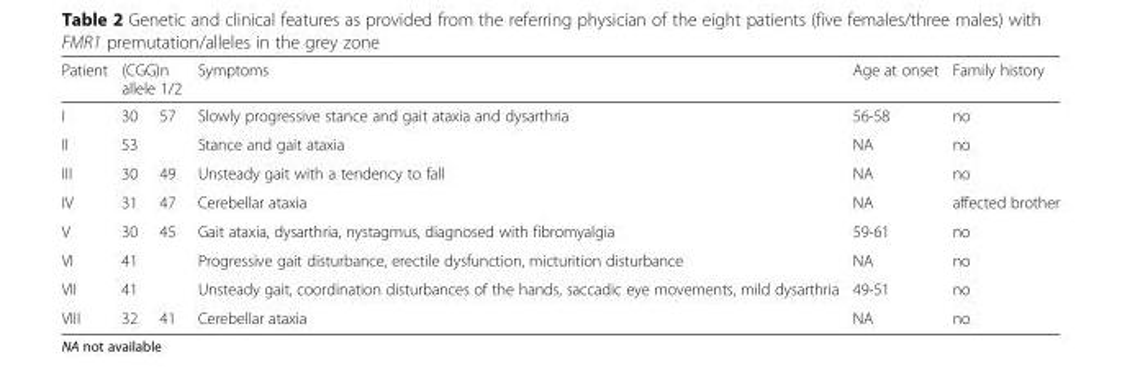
<table><thead><tr><td rowspan="2">Patient I</td><td colspan="2">(CGG)n allele 1/2</td><td rowspan="2">Symptoms Slowly progressive stance and gait ataxia and dysarthria</td><td rowspan="2">Age at onset 56-58</td><td rowspan="2">Family history no</td></tr><tr><td>30</td><td>57</td></tr></thead><tbody><tr><td>II</td><td colspan="2">53</td><td>Stance and gait ataxia</td><td>NA</td><td>no</td></tr><tr><td>III</td><td>30</td><td>49</td><td>Unsteady gait with a tendency to fall</td><td>NA</td><td>no</td></tr><tr><td>IV</td><td>31</td><td>47</td><td>Cerebellar ataxia</td><td>NA</td><td>affected brother</td></tr><tr><td>V</td><td>30</td><td>45</td><td>Gait ataxia, dysarthria, nystagmus, diagnosed with fibromyalgia</td><td>59-61</td><td>no</td></tr><tr><td>VI</td><td colspan="2">41</td><td>Progressive gait disturbance, erectile dysfunction, micturition disturbance</td><td>NA</td><td>no</td></tr><tr><td>VII</td><td colspan="2">41</td><td>Unsteady gait, coordination disturbances of the hands, saccadic eye movements, mild dysarthria</td><td>49-51</td><td>no</td></tr><tr><td>VIII</td><td>32</td><td>41</td><td>Cerebellar ataxia</td><td>NA</td><td>no</td></tr></tbody></table>